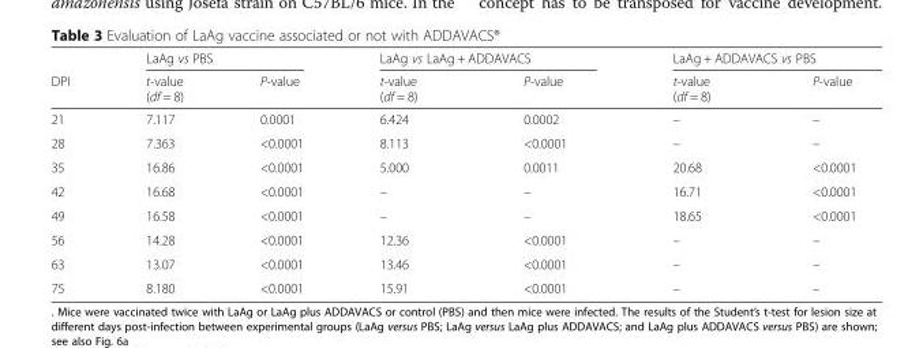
<table><thead><tr><td rowspan="2">DPI</td><td colspan="2">LaAg vs PBS</td><td colspan="2">LaAg vs LaAg + ADDAVACS</td><td colspan="2">LaAg + ADDAVACS vs PBS</td></tr><tr><td>t-value (df = 8)</td><td>P-value</td><td>t-value (df = 8)</td><td>P-value</td><td>t-value (df = 8)</td><td>P-value</td></tr></thead><tbody><tr><td>21</td><td>7.117</td><td>0.0001</td><td>6.424</td><td>0.0002</td><td>–</td><td>–</td></tr><tr><td>28</td><td>7.363</td><td>&lt;0.0001</td><td>8.113</td><td>&lt;0.0001</td><td>–</td><td>–</td></tr><tr><td>35</td><td>16.86</td><td>&lt;0.0001</td><td>5.000</td><td>0.0011</td><td>20.68</td><td>&lt;0.0001</td></tr><tr><td>42</td><td>16.68</td><td>&lt;0.0001</td><td>–</td><td>–</td><td>16.71</td><td>&lt;0.0001</td></tr><tr><td>49</td><td>16.58</td><td>&lt;0.0001</td><td>–</td><td>–</td><td>18.65</td><td>&lt;0.0001</td></tr><tr><td>56</td><td>14.28</td><td>&lt;0.0001</td><td>12.36</td><td>&lt;0.0001</td><td>–</td><td>–</td></tr><tr><td>63</td><td>13.07</td><td>&lt;0.0001</td><td>13.46</td><td>&lt;0.0001</td><td>–</td><td>–</td></tr><tr><td>75</td><td>8.180</td><td>&lt;0.0001</td><td>15.91</td><td>&lt;0.0001</td><td>–</td><td>–</td></tr></tbody></table>